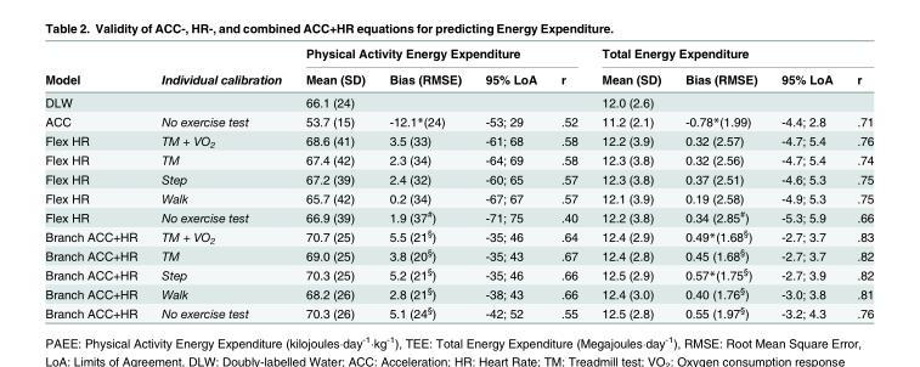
<table><thead><tr><td rowspan="2">Model</td><td rowspan="2">Individual calibration</td><td colspan="4">Physical Activity Energy Expenditure</td><td colspan="4">Total Energy Expenditure</td></tr><tr><td>Mean (SD)</td><td>Bias (RMSE)</td><td>95% LoA</td><td>r</td><td>Mean (SD)</td><td>Bias (RMSE)</td><td>95% LoA</td><td>r</td></tr></thead><tbody><tr><td>DLW</td><td></td><td>66.1 (24)</td><td></td><td></td><td></td><td>12.0 (2.6)</td><td></td><td></td><td></td></tr><tr><td>ACC</td><td>No exercise test</td><td>53.7 (15)</td><td>-12.1*(24)</td><td>-53; 29</td><td>.52</td><td>11.2 (2.1)</td><td>-0.78*(1.99)</td><td>-4.4; 2.8</td><td>.71</td></tr><tr><td>Flex HR</td><td>TM + VO<sub>2</sub></td><td>68.6 (41)</td><td>3.5 (33)</td><td>-61; 68</td><td>.58</td><td>12.2 (3.9)</td><td>0.32 (2.57)</td><td>-4.7; 5.4</td><td>.76</td></tr><tr><td>Flex HR</td><td>TM</td><td>67.4 (42)</td><td>2.3 (34)</td><td>-64; 69</td><td>.58</td><td>12.3 (3.8)</td><td>0.32 (2.56)</td><td>-4.7; 5.4</td><td>.74</td></tr><tr><td>Flex HR</td><td>Step</td><td>67.2 (39)</td><td>2.4 (32)</td><td>-60; 65</td><td>.57</td><td>12.3 (3.8)</td><td>0.37 (2.51)</td><td>-4.6; 5.3</td><td>.75</td></tr><tr><td>Flex HR</td><td>Walk</td><td>65.7 (42)</td><td>0.2 (34)</td><td>-67; 67</td><td>.57</td><td>12.1 (3.9)</td><td>0.19 (2.58)</td><td>-4.9; 5.3</td><td>.75</td></tr><tr><td>Flex HR</td><td>No exercise test</td><td>66.9 (39)</td><td>1.9 (37<sup>#</sup>)</td><td>-71; 75</td><td>.40</td><td>12.2 (3.8)</td><td>0.34 (2.85<sup>#</sup>)</td><td>-5.3; 5.9</td><td>.66</td></tr><tr><td>Branch ACC+HR</td><td>TM + VO<sub>2</sub></td><td>70.7 (25)</td><td>5.5 (21<sup>§</sup>)</td><td>-35; 46</td><td>.64</td><td>12.4 (2.9)</td><td>0.49*(1.68<sup>§</sup>)</td><td>-2.7; 3.7</td><td>.83</td></tr><tr><td>Branch ACC+HR</td><td>TM</td><td>69.0 (25)</td><td>3.8 (20<sup>§</sup>)</td><td>-35; 43</td><td>.67</td><td>12.4 (2.8)</td><td>0.45 (1.68<sup>§</sup>)</td><td>-2.7; 3.7</td><td>.82</td></tr><tr><td>Branch ACC+HR</td><td>Step</td><td>70.3 (25)</td><td>5.2 (21<sup>§</sup>)</td><td>-35; 46</td><td>.66</td><td>12.5 (2.9)</td><td>0.57*(1.75<sup>§</sup>)</td><td>-2.7; 3.9</td><td>.82</td></tr><tr><td>Branch ACC+HR</td><td>Walk</td><td>68.2 (26)</td><td>2.8 (21<sup>§</sup>)</td><td>-38; 43</td><td>.66</td><td>12.4 (3.0)</td><td>0.40 (1.76<sup>§</sup>)</td><td>-3.0; 3.8</td><td>.81</td></tr><tr><td>Branch ACC+HR</td><td>No exercise test</td><td>70.3 (26)</td><td>5.1 (24<sup>§</sup>)</td><td>-42; 52</td><td>.55</td><td>12.5 (2.8)</td><td>0.55 (1.97<sup>§</sup>)</td><td>-3.2; 4.3</td><td>.76</td></tr></tbody></table>